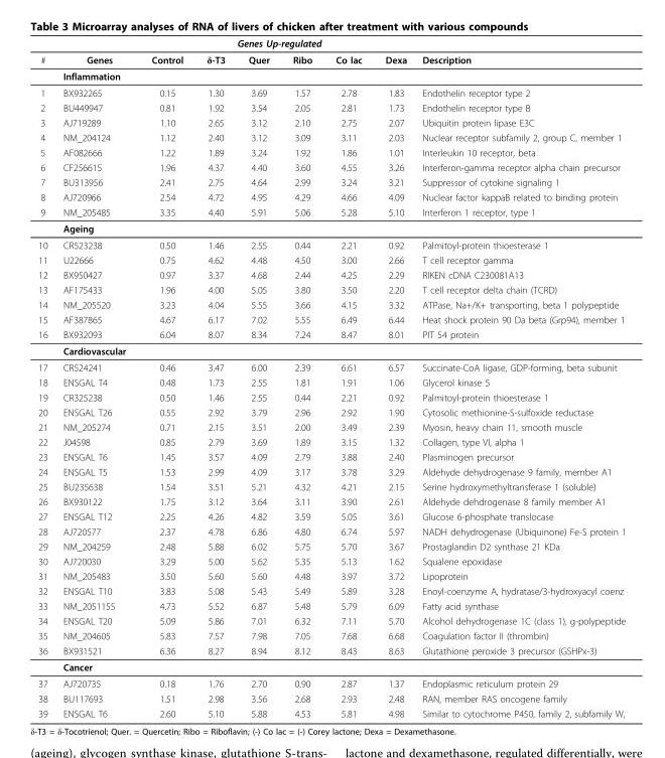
<table><thead><tr><td rowspan="2">#</td><td rowspan="2">Genes</td><td colspan="6">Genes Up-regulated</td><td rowspan="2">Description</td></tr><tr><td>Control</td><td>δ-T3</td><td>Quer</td><td>Ribo</td><td>Co lac</td><td>Dexa</td></tr></thead><tbody><tr><td></td><td>Inflammation</td><td></td><td></td><td></td><td></td><td></td><td></td><td></td></tr><tr><td>1</td><td>BX932265</td><td>0.15</td><td>1.30</td><td>3.69</td><td>1.57</td><td>2.78</td><td>1.83</td><td>Endothelin receptor type 2</td></tr><tr><td>2</td><td>BU449947</td><td>0.81</td><td>1.92</td><td>3.54</td><td>2.05</td><td>2.81</td><td>1.73</td><td>Endothelin receptor type B</td></tr><tr><td>3</td><td>AJ719289</td><td>1.10</td><td>2.65</td><td>3.12</td><td>2.10</td><td>2.75</td><td>2.07</td><td>Ubiquitin protein lipase E3C</td></tr><tr><td>4</td><td>NM_204124</td><td>1.12</td><td>2.40</td><td>3.12</td><td>3.09</td><td>3.11</td><td>2.03</td><td>Nuclear receptor subfamily 2, group C, member 1</td></tr><tr><td>5</td><td>AF082666</td><td>1.22</td><td>1.89</td><td>3.24</td><td>1.92</td><td>1.86</td><td>1.01</td><td>Interleukin 10 receptor, beta</td></tr><tr><td>6</td><td>CF256615</td><td>1.96</td><td>4.37</td><td>4.40</td><td>3.60</td><td>4.55</td><td>3.26</td><td>Interferon-gamma receptor alpha chain precursor</td></tr><tr><td>7</td><td>BU313956</td><td>2.41</td><td>2.75</td><td>4.64</td><td>2.99</td><td>3.24</td><td>3.21</td><td>Suppressor of cytokine signaling 1</td></tr><tr><td>8</td><td>AJ720966</td><td>2.54</td><td>4.72</td><td>4.95</td><td>4.29</td><td>4.66</td><td>4.09</td><td>Nuclear factor kappaB related to binding protein</td></tr><tr><td rowspan="2">9</td><td>NM_205485</td><td>3.35</td><td>4.40</td><td>5.91</td><td>5.06</td><td>5.28</td><td>5.10</td><td>Interferon 1 receptor, type 1</td></tr><tr><td>Ageing</td><td></td><td></td><td></td><td></td><td></td><td></td><td></td></tr><tr><td>10</td><td>CR523238</td><td>0.50</td><td>1.46</td><td>2.55</td><td>0.44</td><td>2.21</td><td>0.92</td><td>Palmitoyl-protein thioesterase 1</td></tr><tr><td>11</td><td>U22666</td><td>0.75</td><td>4.62</td><td>4.48</td><td>4.50</td><td>3.00</td><td>2.66</td><td>T cell receptor gamma</td></tr><tr><td>12</td><td>BX950427</td><td>0.97</td><td>3.37</td><td>4.68</td><td>2.44</td><td>4.25</td><td>2.29</td><td>RIKEN cDNA C230081A13</td></tr><tr><td>13</td><td>AF175433</td><td>1.96</td><td>4.00</td><td>5.05</td><td>3.80</td><td>3.50</td><td>2.20</td><td>T cell receptor delta chain (TCRD)</td></tr><tr><td>14</td><td>NM_205520</td><td>3.23</td><td>4.04</td><td>5.55</td><td>3.66</td><td>4.15</td><td>3.32</td><td>ATPase, Na+/K+ transporting, beta 1 polypeptide</td></tr><tr><td>15</td><td>AF387865</td><td>4.67</td><td>6.17</td><td>7.02</td><td>5.55</td><td>6.49</td><td>6.44</td><td>Heat shock protein 90 Da beta (Grp94), member 1</td></tr><tr><td rowspan="2">16</td><td>BX932093</td><td>6.04</td><td>8.07</td><td>8.34</td><td>7.24</td><td>8.47</td><td>8.01</td><td>PIT 54 protein</td></tr><tr><td colspan="2">Cardiovascular</td><td></td><td></td><td></td><td></td><td></td><td></td></tr><tr><td>17</td><td>CR524241</td><td>0.46</td><td>3.47</td><td>6.00</td><td>2.39</td><td>6.61</td><td>6.57</td><td>Succinate-CoA ligase, GDP-forming, beta subunit</td></tr><tr><td>18</td><td>ENSGAL T4</td><td>0.48</td><td>1.73</td><td>2.55</td><td>1.81</td><td>1.91</td><td>1.06</td><td>Glycerol kinase 5</td></tr><tr><td>19</td><td>CR325238</td><td>0.50</td><td>1.46</td><td>2.55</td><td>0.44</td><td>2.21</td><td>0.92</td><td>Palmitoyl-protein thioesterase 1</td></tr><tr><td>20</td><td>ENSGAL T26</td><td>0.55</td><td>2.92</td><td>3.79</td><td>2.96</td><td>2.92</td><td>1.90</td><td>Cytosolic methionine-S-sulfoxide reductase</td></tr><tr><td>21</td><td>NM_205274</td><td>0.71</td><td>2.15</td><td>3.51</td><td>2.00</td><td>3.49</td><td>2.39</td><td>Myosin, heavy chain 11, smooth muscle</td></tr><tr><td>22</td><td>J04598</td><td>0.85</td><td>2.79</td><td>3.69</td><td>1.89</td><td>3.15</td><td>1.32</td><td>Collagen, type VI, alpha 1</td></tr><tr><td>23</td><td>ENSGAL T6</td><td>1.45</td><td>3.57</td><td>4.09</td><td>2.79</td><td>3.88</td><td>2.40</td><td>Plasminogen precursor</td></tr><tr><td>24</td><td>ENSGAL T5</td><td>1.53</td><td>2.99</td><td>4.09</td><td>3.17</td><td>3.78</td><td>3.29</td><td>Aldehyde dehydrogenase 9 family, member A1</td></tr><tr><td>25</td><td>BU235638</td><td>1.54</td><td>3.51</td><td>5.21</td><td>4.32</td><td>4.21</td><td>2.15</td><td>Serine hydroxymethyltransferase 1 (soluble)</td></tr><tr><td>26</td><td>BX930122</td><td>1.75</td><td>3.12</td><td>3.64</td><td>3.11</td><td>3.90</td><td>2.61</td><td>Aldehyde dehdrogenase 8 family member A1</td></tr><tr><td>27</td><td>ENSGAL T12</td><td>2.25</td><td>4.26</td><td>4.82</td><td>3.59</td><td>5.05</td><td>3.61</td><td>Glucose 6-phosphate translocase</td></tr><tr><td>28</td><td>AJ720577</td><td>2.37</td><td>4.78</td><td>6.86</td><td>4.80</td><td>6.74</td><td>5.97</td><td>NADH dehydrogenase (Ubiquinone) Fe-S protein 1</td></tr><tr><td>29</td><td>NM_204259</td><td>2.48</td><td>5.88</td><td>6.02</td><td>5.75</td><td>5.70</td><td>3.67</td><td>Prostaglandin D2 synthase 21 KDa</td></tr><tr><td>30</td><td>AJ720030</td><td>3.29</td><td>5.00</td><td>5.62</td><td>5.35</td><td>5.13</td><td>1.62</td><td>Squalene epoxidase</td></tr><tr><td>31</td><td>NM_205483</td><td>3.50</td><td>5.60</td><td>5.60</td><td>4.48</td><td>3.97</td><td>3.72</td><td>Lipoprotein</td></tr><tr><td>32</td><td>ENSGAL T10</td><td>3.83</td><td>5.08</td><td>5.43</td><td>5.49</td><td>5.89</td><td>3.28</td><td>Enoyl-coenzyme A, hydratase/3-hydroxyacyl coenz</td></tr><tr><td>33</td><td>NM_2051155</td><td>4.73</td><td>5.52</td><td>6.87</td><td>5.48</td><td>5.79</td><td>6.09</td><td>Fatty acid synthase</td></tr><tr><td>34</td><td>ENSGAL T20</td><td>5.09</td><td>5.86</td><td>7.01</td><td>6.32</td><td>7.11</td><td>5.70</td><td>Alcohol dehydrogenase 1C (class 1), g-polypeptide</td></tr><tr><td>35</td><td>NM_204605</td><td>5.83</td><td>7.57</td><td>7.98</td><td>7.05</td><td>7.68</td><td>6.68</td><td>Coagulation factor II (thrombin)</td></tr><tr><td rowspan="2">36</td><td>BX931521</td><td>6.36</td><td>8.27</td><td>8.94</td><td>8.12</td><td>8.43</td><td>8.63</td><td>Glutathione peroxide 3 precursor (GSHPx-3)</td></tr><tr><td>Cancer</td><td></td><td></td><td></td><td></td><td></td><td></td><td></td></tr><tr><td>37</td><td>AJ720735</td><td>0.18</td><td>1.76</td><td>2.70</td><td>0.90</td><td>2.87</td><td>1.37</td><td>Endoplasmic reticulum protein 29</td></tr><tr><td>38</td><td>BU117693</td><td>1.51</td><td>2.98</td><td>3.56</td><td>2.68</td><td>2.93</td><td>2.48</td><td>RAN, member RAS oncogene family</td></tr><tr><td>39</td><td>ENSGAL T6</td><td>2.60</td><td>5.10</td><td>5.88</td><td>4.53</td><td>5.81</td><td>4.98</td><td>Similar to cytochrome P450, family 2, subfamily W,</td></tr></tbody></table>